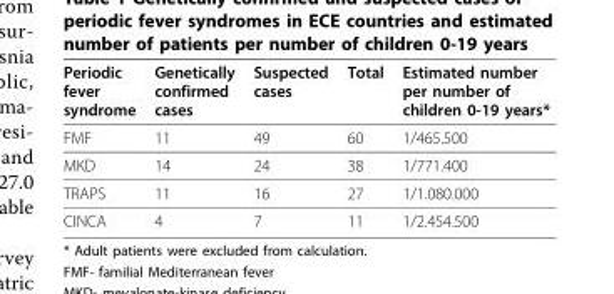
<table><thead><tr><td>Periodic fever syndrome</td><td>Genetically confirmed cases</td><td>Suspected cases</td><td>Total</td><td>Estimated number per number of children 0-19 years*</td></tr></thead><tbody><tr><td>FMF</td><td>11</td><td>49</td><td>60</td><td>1/465.500</td></tr><tr><td>MKD</td><td>14</td><td>24</td><td>38</td><td>1/771.400</td></tr><tr><td>TRAPS</td><td>11</td><td>16</td><td>27</td><td>1/1.080.000</td></tr><tr><td>CINCA</td><td>4</td><td>7</td><td>11</td><td>1/2.454.500</td></tr></tbody></table>